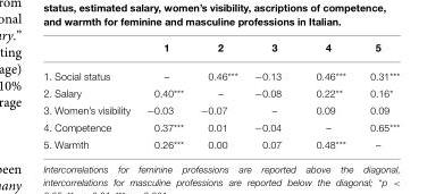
<table><thead><tr><td></td><td>1</td><td>2</td><td>3</td><td>4</td><td>5</td></tr></thead><tbody><tr><td>1. Social status</td><td>–</td><td>0.46***</td><td>−0.13</td><td>0.46***</td><td>0.31***</td></tr><tr><td>2. Salary</td><td>0.40***</td><td>–</td><td>−0.08</td><td>0.22**</td><td>0.16*</td></tr><tr><td>3. Women’s visibility</td><td>−0.03</td><td>−0.07</td><td>–</td><td>0.09</td><td>0.09</td></tr><tr><td>4. Competence</td><td>0.37***</td><td>0.01</td><td>−0.04</td><td>–</td><td>0.65***</td></tr><tr><td>5. Warmth</td><td>0.26***</td><td>0.00</td><td>0.07</td><td>0.48***</td><td>–</td></tr></tbody></table>